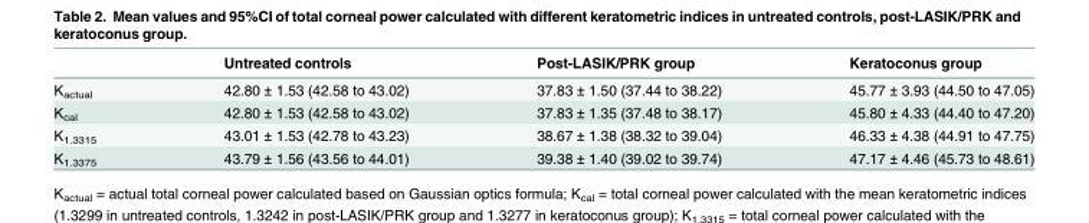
<table><thead><tr><td></td><td>Untreated controls</td><td>Post-LASIK/PRK group</td><td>Keratoconus group</td></tr></thead><tbody><tr><td>K<sub>actual</sub></td><td>42.80 ± 1.53 (42.58 to 43.02)</td><td>37.83 ± 1.50 (37.44 to 38.22)</td><td>45.77 ± 3.93 (44.50 to 47.05)</td></tr><tr><td>K<sub>cal</sub></td><td>42.80 ± 1.53 (42.58 to 43.02)</td><td>37.83 ± 1.35 (37.48 to 38.17)</td><td>45.80 ± 4.33 (44.40 to 47.20)</td></tr><tr><td>K<sub>1.3315</sub></td><td>43.01 ± 1.53 (42.78 to 43.23)</td><td>38.67 ± 1.38 (38.32 to 39.04)</td><td>46.33 ± 4.38 (44.91 to 47.75)</td></tr><tr><td>K<sub>1.3375</sub></td><td>43.79 ± 1.56 (43.56 to 44.01)</td><td>39.38 ± 1.40 (39.02 to 39.74)</td><td>47.17 ± 4.46 (45.73 to 48.61)</td></tr></tbody></table>